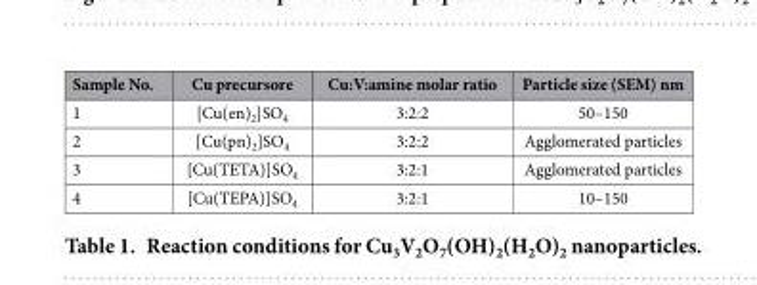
<table><thead><tr><td>Sample No.</td><td>Cu precursore</td><td>Cu:V:amine molar ratio</td><td>Particle size (SEM) nm</td></tr></thead><tbody><tr><td>1</td><td>[Cu(en)<sub>2</sub>]SO<sub>4</sub></td><td>3:2:2</td><td>50–150</td></tr><tr><td>2</td><td>[Cu(pn)<sub>2</sub>]SO<sub>4</sub></td><td>3:2:2</td><td>Agglomerated particles</td></tr><tr><td>3</td><td>[Cu(TETA)]SO<sub>4</sub></td><td>3:2:1</td><td>Agglomerated particles</td></tr><tr><td>4</td><td>[Cu(TEPA)]SO<sub>4</sub></td><td>3:2:1</td><td>10–150</td></tr></tbody></table>